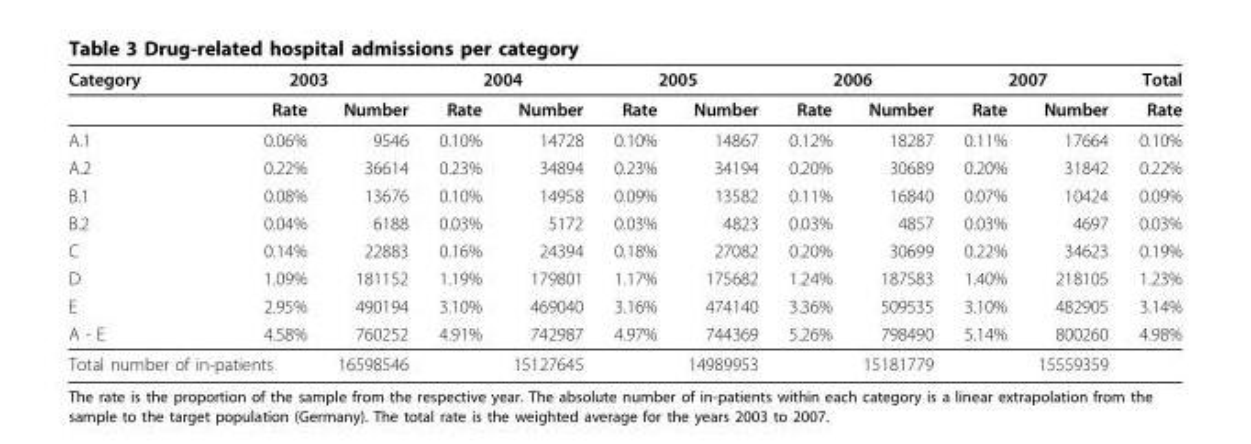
<table><thead><tr><td rowspan="2">Category</td><td colspan="2">2003</td><td colspan="2">2004</td><td colspan="2">2005</td><td colspan="2">2006</td><td colspan="2">2007</td><td rowspan="2">Total Rate</td></tr><tr><td>Rate</td><td>Number</td><td>Rate</td><td>Number</td><td>Rate</td><td>Number</td><td>Rate</td><td>Number</td><td>Rate</td><td>Number</td></tr></thead><tbody><tr><td>A.1</td><td>0.06%</td><td>9546</td><td>0.10%</td><td>14728</td><td>0.10%</td><td>14867</td><td>0.12%</td><td>18287</td><td>0.11%</td><td>17664</td><td>0.10%</td></tr><tr><td>A.2</td><td>0.22%</td><td>36614</td><td>0.23%</td><td>34894</td><td>0.23%</td><td>34194</td><td>0.20%</td><td>30689</td><td>0.20%</td><td>31842</td><td>0.22%</td></tr><tr><td>B.1</td><td>0.08%</td><td>13676</td><td>0.10%</td><td>14958</td><td>0.09%</td><td>13582</td><td>0.11%</td><td>16840</td><td>0.07%</td><td>10424</td><td>0.09%</td></tr><tr><td>B.2</td><td>0.04%</td><td>6188</td><td>0.03%</td><td>5172</td><td>0.03%</td><td>4823</td><td>0.03%</td><td>4857</td><td>0.03%</td><td>4697</td><td>0.03%</td></tr><tr><td>C</td><td>0.14%</td><td>22883</td><td>0.16%</td><td>24394</td><td>0.18%</td><td>27082</td><td>0.20%</td><td>30699</td><td>0.22%</td><td>34623</td><td>0.19%</td></tr><tr><td>D</td><td>1.09%</td><td>181152</td><td>1.19%</td><td>179801</td><td>1.17%</td><td>175682</td><td>1.24%</td><td>187583</td><td>1.40%</td><td>218105</td><td>1.23%</td></tr><tr><td>E</td><td>2.95%</td><td>490194</td><td>3.10%</td><td>469040</td><td>3.16%</td><td>474140</td><td>3.36%</td><td>509535</td><td>3.10%</td><td>482905</td><td>3.14%</td></tr><tr><td>A - E</td><td>4.58%</td><td>760252</td><td>4.91%</td><td>742987</td><td>4.97%</td><td>744369</td><td>5.26%</td><td>798490</td><td>5.14%</td><td>800260</td><td>4.98%</td></tr><tr><td colspan="2">Total number of in-patients</td><td>16598546</td><td></td><td>15127645</td><td></td><td>14989953</td><td></td><td>15181779</td><td></td><td>15559359</td><td></td></tr></tbody></table>